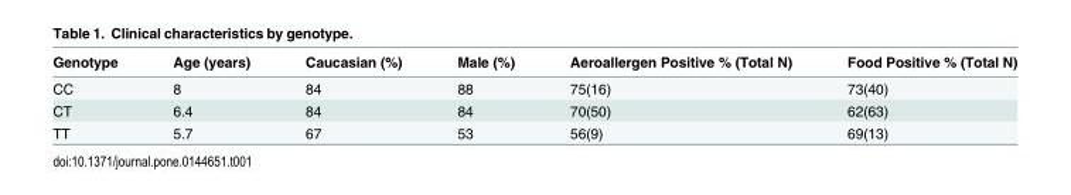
<table><thead><tr><td>Genotype</td><td>Age (years)</td><td>Caucasian (%)</td><td>Male (%)</td><td>Aeroallergen Positive % (Total N)</td><td>Food Positive % (Total N)</td></tr></thead><tbody><tr><td>CC</td><td>8</td><td>84</td><td>88</td><td>75(16)</td><td>73(40)</td></tr><tr><td>CT</td><td>6.4</td><td>84</td><td>84</td><td>70(50)</td><td>62(63)</td></tr><tr><td>TT</td><td>5.7</td><td>67</td><td>53</td><td>56(9)</td><td>69(13)</td></tr></tbody></table>